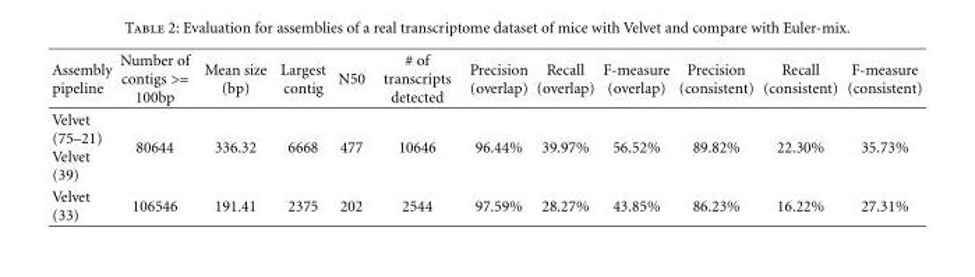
<table><thead><tr><td>Assembly pipeline</td><td>Number of contigs &gt;= 100bp</td><td>Mean size (bp)</td><td>Largest contig</td><td>N50</td><td># of transcripts detected</td><td>Precision (overlap)</td><td>Recall (overlap)</td><td>F-measure (overlap)</td><td>Precision (consistent)</td><td>Recall (consistent)</td><td>F-measure (consistent)</td></tr></thead><tbody><tr><td>Velvet (75–21) Velvet (39)</td><td>80644</td><td>336.32</td><td>6668</td><td>477</td><td>10646</td><td>96.44%</td><td>39.97%</td><td>56.52%</td><td>89.82%</td><td>22.30%</td><td>35.73%</td></tr><tr><td>Velvet (33)</td><td>106546</td><td>191.41</td><td>2375</td><td>202</td><td>2544</td><td>97.59%</td><td>28.27%</td><td>43.85%</td><td>86.23%</td><td>16.22%</td><td>27.31%</td></tr></tbody></table>